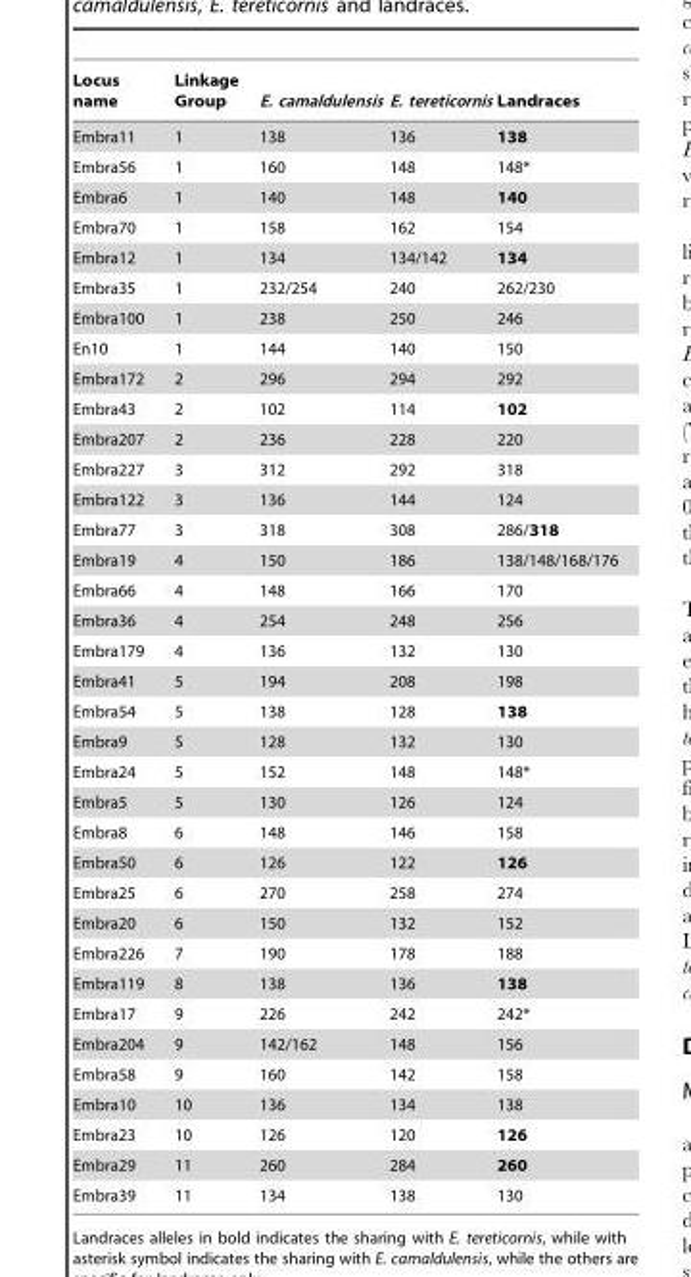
<table><thead><tr><td>Locus name</td><td>Linkage Group</td><td>E. camaldulensis</td><td>E. tereticornis</td><td>Landraces</td></tr></thead><tbody><tr><td>Embra11</td><td>1</td><td>138</td><td>136</td><td>138</td></tr><tr><td>Embra56</td><td>1</td><td>160</td><td>148</td><td>148*</td></tr><tr><td>Embra6</td><td>1</td><td>140</td><td>148</td><td>140</td></tr><tr><td>Embra70</td><td>1</td><td>158</td><td>162</td><td>154</td></tr><tr><td>Embra12</td><td>1</td><td>134</td><td>134/142</td><td>134</td></tr><tr><td>Embra35</td><td>1</td><td>232/254</td><td>240</td><td>262/230</td></tr><tr><td>Embra100</td><td>1</td><td>238</td><td>250</td><td>246</td></tr><tr><td>En10</td><td>1</td><td>144</td><td>140</td><td>150</td></tr><tr><td>Embra172</td><td>2</td><td>296</td><td>294</td><td>292</td></tr><tr><td>Embra43</td><td>2</td><td>102</td><td>114</td><td>102</td></tr><tr><td>Embra207</td><td>2</td><td>236</td><td>228</td><td>220</td></tr><tr><td>Embra227</td><td>3</td><td>312</td><td>292</td><td>318</td></tr><tr><td>Embra122</td><td>3</td><td>136</td><td>144</td><td>124</td></tr><tr><td>Embra77</td><td>3</td><td>318</td><td>308</td><td>286/318</td></tr><tr><td>Embra19</td><td>4</td><td>150</td><td>186</td><td>138/148/168/176</td></tr><tr><td>Embra66</td><td>4</td><td>148</td><td>166</td><td>170</td></tr><tr><td>Embra36</td><td>4</td><td>254</td><td>248</td><td>256</td></tr><tr><td>Embra179</td><td>4</td><td>136</td><td>132</td><td>130</td></tr><tr><td>Embra41</td><td>5</td><td>194</td><td>208</td><td>198</td></tr><tr><td>Embra54</td><td>5</td><td>138</td><td>128</td><td>138</td></tr><tr><td>Embra9</td><td>5</td><td>128</td><td>132</td><td>130</td></tr><tr><td>Embra24</td><td>5</td><td>152</td><td>148</td><td>148*</td></tr><tr><td>Embra5</td><td>5</td><td>130</td><td>126</td><td>124</td></tr><tr><td>Embra8</td><td>6</td><td>148</td><td>146</td><td>158</td></tr><tr><td>Embra50</td><td>6</td><td>126</td><td>122</td><td>126</td></tr><tr><td>Embra25</td><td>6</td><td>270</td><td>258</td><td>274</td></tr><tr><td>Embra20</td><td>6</td><td>150</td><td>132</td><td>152</td></tr><tr><td>Embra226</td><td>7</td><td>190</td><td>178</td><td>188</td></tr><tr><td>Embra119</td><td>8</td><td>138</td><td>136</td><td>138</td></tr><tr><td>Embra17</td><td>9</td><td>226</td><td>242</td><td>242*</td></tr><tr><td>Embra204</td><td>9</td><td>142/162</td><td>148</td><td>156</td></tr><tr><td>Embra58</td><td>9</td><td>160</td><td>142</td><td>158</td></tr><tr><td>Embra10</td><td>10</td><td>136</td><td>134</td><td>138</td></tr><tr><td>Embra23</td><td>10</td><td>126</td><td>120</td><td>126</td></tr><tr><td>Embra29</td><td>11</td><td>260</td><td>284</td><td>260</td></tr><tr><td>Embra39</td><td>11</td><td>134</td><td>138</td><td>130</td></tr></tbody></table>